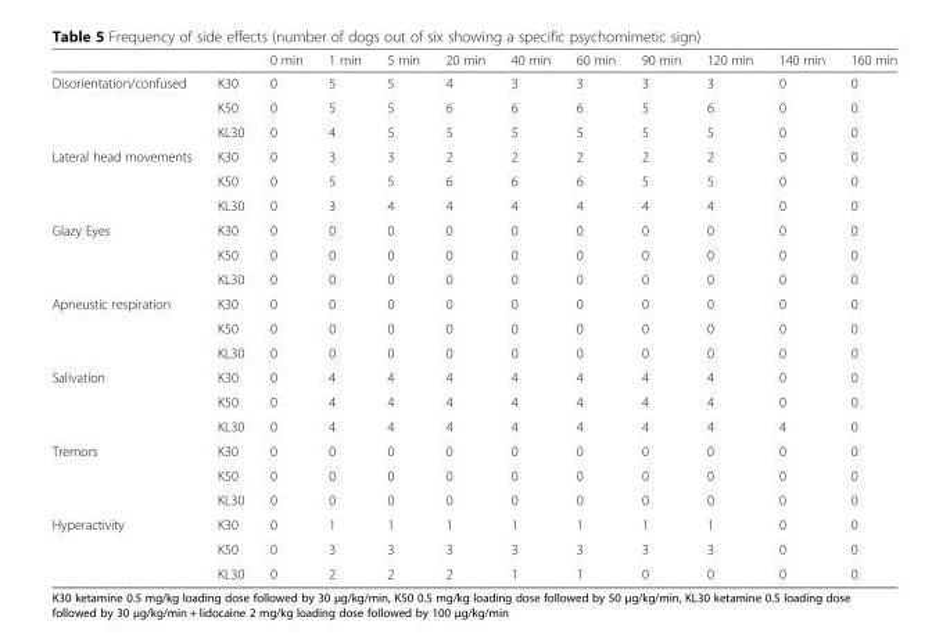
<table><thead><tr><td></td><td></td><td>0 min</td><td>1 min</td><td>5 min</td><td>20 min</td><td>40 min</td><td>60 min</td><td>90 min</td><td>120 min</td><td>140 min</td><td>160 min</td></tr></thead><tbody><tr><td rowspan="3">Disorientation/confused</td><td>K30</td><td>0</td><td>5</td><td>5</td><td>4</td><td>3</td><td>3</td><td>3</td><td>3</td><td>0</td><td>0</td></tr><tr><td>K50</td><td>0</td><td>5</td><td>5</td><td>6</td><td>6</td><td>6</td><td>5</td><td>6</td><td>0</td><td>0</td></tr><tr><td>KL30</td><td>0</td><td>4</td><td>5</td><td>5</td><td>5</td><td>5</td><td>5</td><td>5</td><td>0</td><td>0</td></tr><tr><td rowspan="3">Lateral head movements</td><td>K30</td><td>0</td><td>3</td><td>3</td><td>2</td><td>2</td><td>2</td><td>2</td><td>2</td><td>0</td><td>0</td></tr><tr><td>K50</td><td>0</td><td>5</td><td>5</td><td>6</td><td>6</td><td>6</td><td>5</td><td>5</td><td>0</td><td>0</td></tr><tr><td>KL30</td><td>0</td><td>3</td><td>4</td><td>4</td><td>4</td><td>4</td><td>4</td><td>4</td><td>0</td><td>0</td></tr><tr><td rowspan="3">Glazy Eyes</td><td>K30</td><td>0</td><td>0</td><td>0</td><td>0</td><td>0</td><td>0</td><td>0</td><td>0</td><td>0</td><td>0</td></tr><tr><td>K50</td><td>0</td><td>0</td><td>0</td><td>0</td><td>0</td><td>0</td><td>0</td><td>0</td><td>0</td><td>0</td></tr><tr><td>KL30</td><td>0</td><td>0</td><td>0</td><td>0</td><td>0</td><td>0</td><td>0</td><td>0</td><td>0</td><td>0</td></tr><tr><td rowspan="3">Apneustic respiration</td><td>K30</td><td>0</td><td>0</td><td>0</td><td>0</td><td>0</td><td>0</td><td>0</td><td>0</td><td>0</td><td>0</td></tr><tr><td>K50</td><td>0</td><td>0</td><td>0</td><td>0</td><td>0</td><td>0</td><td>0</td><td>0</td><td>0</td><td>0</td></tr><tr><td>KL30</td><td>0</td><td>0</td><td>0</td><td>0</td><td>0</td><td>0</td><td>0</td><td>0</td><td>0</td><td>0</td></tr><tr><td rowspan="3">Salivation</td><td>K30</td><td>0</td><td>4</td><td>4</td><td>4</td><td>4</td><td>4</td><td>4</td><td>4</td><td>0</td><td>0</td></tr><tr><td>K50</td><td>0</td><td>4</td><td>4</td><td>4</td><td>4</td><td>4</td><td>4</td><td>4</td><td>0</td><td>0</td></tr><tr><td>KL30</td><td>0</td><td>4</td><td>4</td><td>4</td><td>4</td><td>4</td><td>4</td><td>4</td><td>4</td><td>0</td></tr><tr><td rowspan="3">Tremors</td><td>K30</td><td>0</td><td>0</td><td>0</td><td>0</td><td>0</td><td>0</td><td>0</td><td>0</td><td>0</td><td>0</td></tr><tr><td>K50</td><td>0</td><td>0</td><td>0</td><td>0</td><td>0</td><td>0</td><td>0</td><td>0</td><td>0</td><td>0</td></tr><tr><td>KL30</td><td>0</td><td>0</td><td>0</td><td>0</td><td>0</td><td>0</td><td>0</td><td>0</td><td>0</td><td>0</td></tr><tr><td rowspan="3">Hyperactivity</td><td>K30</td><td>0</td><td>1</td><td>1</td><td>1</td><td>1</td><td>1</td><td>1</td><td>1</td><td>0</td><td>0</td></tr><tr><td>K50</td><td>0</td><td>3</td><td>3</td><td>3</td><td>3</td><td>3</td><td>3</td><td>3</td><td>0</td><td>0</td></tr><tr><td>KL30</td><td>0</td><td>2</td><td>2</td><td>2</td><td>1</td><td>1</td><td>0</td><td>0</td><td>0</td><td>0</td></tr></tbody></table>